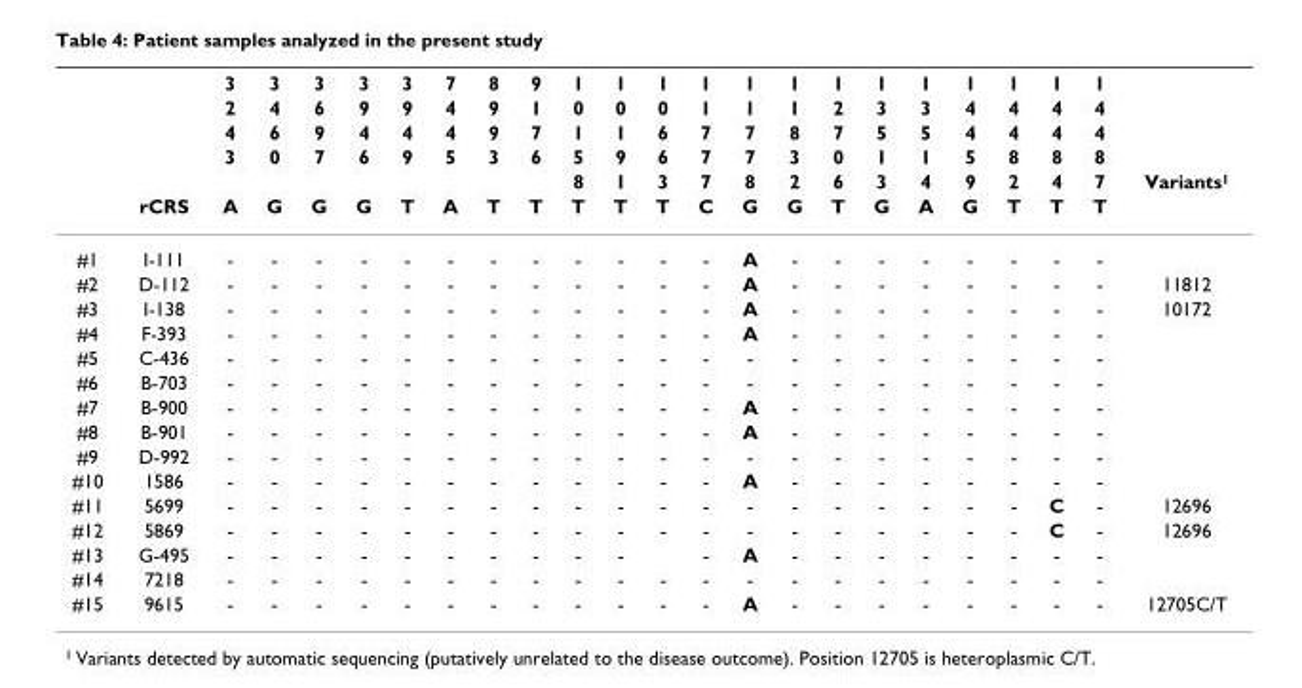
<table><thead><tr><td rowspan="6"></td><td rowspan="6">rCRS</td><td rowspan="6">3 2 4 3 A</td><td rowspan="6">3 4 6 0 G</td><td rowspan="6">3 6 9 7 G</td><td rowspan="6">3 9 4 6 G</td><td rowspan="6">3 9 4 9 T</td><td rowspan="6">7 4 4 5 A</td><td rowspan="6">8 9 9 3 T</td><td rowspan="6">9 1 7 6 T</td><td rowspan="6">1 0 1 5 8 T</td><td rowspan="6">1 0 1 9 1 T</td><td rowspan="6">1 0 6 6 3 T</td><td rowspan="6">1 1 7 7 7 C</td><td rowspan="6">1 1 7 7 8 G</td><td rowspan="6">1 1 8 3 2 G</td><td rowspan="6">1 2 7 0 6 T</td><td rowspan="6">1 3 5 1 3 G</td><td rowspan="6">1 3 5 1 4 A</td><td rowspan="6">1 4 4 5 9 G</td><td rowspan="6">1 4 4 8 2 T</td><td rowspan="6">1 4 4 8 4 T</td><td rowspan="6">1 4 4 8 7 T</td><td rowspan="6">Variants<sup>1</sup></td></tr><tr></tr><tr></tr><tr></tr><tr></tr><tr></tr></thead><tbody><tr><td>#1</td><td>I-111</td><td>-</td><td>-</td><td>-</td><td>-</td><td>-</td><td>-</td><td>-</td><td>-</td><td>-</td><td>-</td><td>-</td><td>-</td><td>A</td><td>-</td><td>-</td><td>-</td><td>-</td><td>-</td><td>-</td><td>-</td><td>-</td><td></td></tr><tr><td>#2</td><td>D-112</td><td>-</td><td>-</td><td>-</td><td>-</td><td>-</td><td>-</td><td>-</td><td>-</td><td>-</td><td>-</td><td>-</td><td>-</td><td>A</td><td>-</td><td>-</td><td>-</td><td>-</td><td>-</td><td>-</td><td>-</td><td>-</td><td>11812</td></tr><tr><td>#3</td><td>I-138</td><td>-</td><td>-</td><td>-</td><td>-</td><td>-</td><td>-</td><td>-</td><td>-</td><td>-</td><td>-</td><td>-</td><td>-</td><td>A</td><td>-</td><td>-</td><td>-</td><td>-</td><td>-</td><td>-</td><td>-</td><td>-</td><td>10172</td></tr><tr><td>#4</td><td>F-393</td><td>-</td><td>-</td><td>-</td><td>-</td><td>-</td><td>-</td><td>-</td><td>-</td><td>-</td><td>-</td><td>-</td><td>-</td><td>A</td><td>-</td><td>-</td><td>-</td><td>-</td><td>-</td><td>-</td><td>-</td><td>-</td><td></td></tr><tr><td>#5</td><td>C-436</td><td>-</td><td>-</td><td>-</td><td>-</td><td>-</td><td>-</td><td>-</td><td>-</td><td>-</td><td>-</td><td>-</td><td>-</td><td>-</td><td>-</td><td>-</td><td>-</td><td>-</td><td>-</td><td>-</td><td>-</td><td>-</td><td></td></tr><tr><td>#6</td><td>B-703</td><td>-</td><td>-</td><td>-</td><td>-</td><td>-</td><td>-</td><td>-</td><td>-</td><td>-</td><td>-</td><td>-</td><td>-</td><td>-</td><td>-</td><td>-</td><td>-</td><td>-</td><td>-</td><td>-</td><td>-</td><td>-</td><td></td></tr><tr><td>#7</td><td>B-900</td><td>-</td><td>-</td><td>-</td><td>-</td><td>-</td><td>-</td><td>-</td><td>-</td><td>-</td><td>-</td><td>-</td><td>-</td><td>A</td><td>-</td><td>-</td><td>-</td><td>-</td><td>-</td><td>-</td><td>-</td><td>-</td><td></td></tr><tr><td>#8</td><td>B-901</td><td>-</td><td>-</td><td>-</td><td>-</td><td>-</td><td>-</td><td>-</td><td>-</td><td>-</td><td>-</td><td>-</td><td>-</td><td>A</td><td>-</td><td>-</td><td>-</td><td>-</td><td>-</td><td>-</td><td>-</td><td>-</td><td></td></tr><tr><td>#9</td><td>D-992</td><td>-</td><td>-</td><td>-</td><td>-</td><td>-</td><td>-</td><td>-</td><td>-</td><td>-</td><td>-</td><td>-</td><td>-</td><td>-</td><td>-</td><td>-</td><td>-</td><td>-</td><td>-</td><td>-</td><td>-</td><td>-</td><td></td></tr><tr><td>#10</td><td>1586</td><td>-</td><td>-</td><td>-</td><td>-</td><td>-</td><td>-</td><td>-</td><td>-</td><td>-</td><td>-</td><td>-</td><td>-</td><td>A</td><td>-</td><td>-</td><td>-</td><td>-</td><td>-</td><td>-</td><td>-</td><td>-</td><td></td></tr><tr><td>#11</td><td>5699</td><td>-</td><td>-</td><td>-</td><td>-</td><td>-</td><td>-</td><td>-</td><td>-</td><td>-</td><td>-</td><td>-</td><td>-</td><td>-</td><td>-</td><td>-</td><td>-</td><td>-</td><td>-</td><td>-</td><td>C</td><td>-</td><td>12696</td></tr><tr><td>#12</td><td>5869</td><td>-</td><td>-</td><td>-</td><td>-</td><td>-</td><td>-</td><td>-</td><td>-</td><td>-</td><td>-</td><td>-</td><td>-</td><td>-</td><td>-</td><td>-</td><td>-</td><td>-</td><td>-</td><td>-</td><td>C</td><td>-</td><td>12696</td></tr><tr><td>#13</td><td>G-495</td><td>-</td><td>-</td><td>-</td><td>-</td><td>-</td><td>-</td><td>-</td><td>-</td><td>-</td><td>-</td><td></td><td>-</td><td>A</td><td>-</td><td>-</td><td>-</td><td>-</td><td>-</td><td>-</td><td>-</td><td>-</td><td></td></tr><tr><td>#14</td><td>7218</td><td>-</td><td>-</td><td>-</td><td>-</td><td>-</td><td>-</td><td>-</td><td>-</td><td>-</td><td>-</td><td>-</td><td>-</td><td>-</td><td>-</td><td>-</td><td>-</td><td>-</td><td>-</td><td>-</td><td>-</td><td>-</td><td></td></tr><tr><td>#15</td><td>9615</td><td>-</td><td>-</td><td>-</td><td>-</td><td>-</td><td>-</td><td>-</td><td>-</td><td>-</td><td>-</td><td>-</td><td>-</td><td>A</td><td>-</td><td>-</td><td>-</td><td>-</td><td>-</td><td>-</td><td>-</td><td>-</td><td>12705C/T</td></tr></tbody></table>